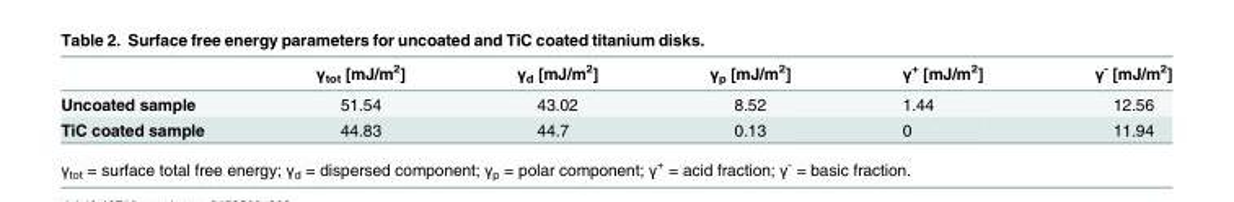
<table><thead><tr><td></td><td>γ<sub>tot</sub> [mJ/m<sup>2</sup>]</td><td>γ<sub>d</sub> [mJ/m<sup>2</sup>]</td><td>γ<sub>p</sub> [mJ/m<sup>2</sup>]</td><td>γ<sup>+</sup> [mJ/m<sup>2</sup>]</td><td>γ<sup>-</sup> [mJ/m<sup>2</sup>]</td></tr></thead><tbody><tr><td>Uncoated sample</td><td>51.54</td><td>43.02</td><td>8.52</td><td>1.44</td><td>12.56</td></tr><tr><td>TiC coated sample</td><td>44.83</td><td>44.7</td><td>0.13</td><td>0</td><td>11.94</td></tr></tbody></table>